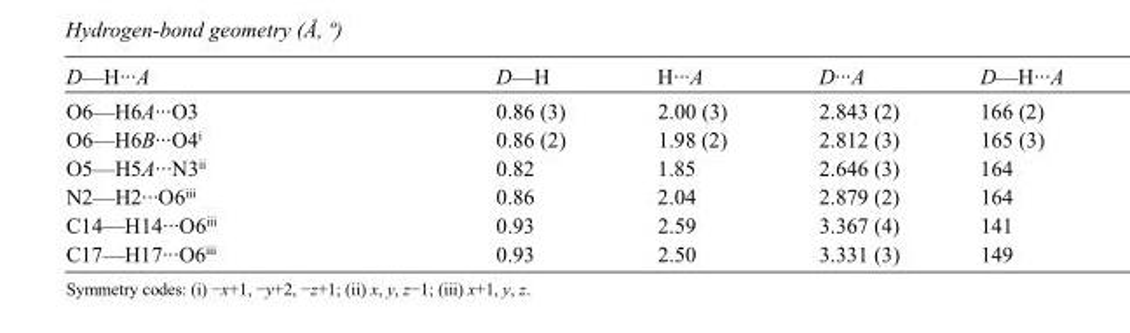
<table><tbody><tr><td>D—H···A</td><td>D—H</td><td>H···A</td><td>D···A</td><td>D—H···A</td></tr><tr><td>O6—H6A···O3</td><td>0.86 (3)</td><td>2.00 (3)</td><td>2.843 (2)</td><td>166 (2)</td></tr><tr><td>O6—H6B···O4<sup>i</sup></td><td>0.86 (2)</td><td>1.98 (2)</td><td>2.812 (3)</td><td>165 (3)</td></tr><tr><td>O5—H5A···N3<sup>ii</sup></td><td>0.82</td><td>1.85</td><td>2.646 (3)</td><td>164</td></tr><tr><td>N2—H2···O6<sup>iii</sup></td><td>0.86</td><td>2.04</td><td>2.879 (2)</td><td>164</td></tr><tr><td>C14—H14···O6<sup>iii</sup></td><td>0.93</td><td>2.59</td><td>3.367 (4)</td><td>141</td></tr><tr><td>C17—H17···O6<sup>iii</sup></td><td>0.93</td><td>2.50</td><td>3.331 (3)</td><td>149</td></tr></tbody></table>